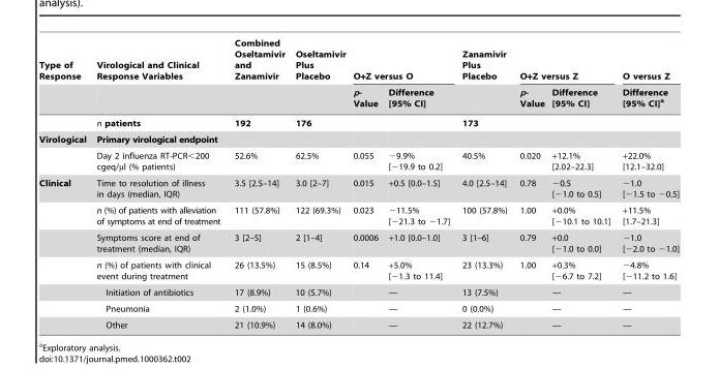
<table><thead><tr><td rowspan="2">Type of Response</td><td rowspan="2">Virological and Clinical Response Variables</td><td rowspan="2">Combined Oseltamivir and Zanamivir</td><td rowspan="2">Oseltamivir Plus Placebo</td><td colspan="2">O+Z versus O</td><td rowspan="2">Zanamivir Plus Placebo</td><td colspan="2">O+Z versus Z</td><td rowspan="2">O versus Z Difference [95% CI]<sup>a</sup></td></tr><tr><td>p- Value</td><td>Difference [95% CI]</td><td>p- Value</td><td>Difference [95% CI]</td></tr></thead><tbody><tr><td></td><td>n patients</td><td>192</td><td>176</td><td></td><td></td><td>173</td><td></td><td></td><td></td></tr><tr><td rowspan="2">Virological</td><td>Primary virological endpoint</td><td></td><td></td><td></td><td></td><td></td><td></td><td></td><td></td></tr><tr><td>Day 2 influenza RT-PCR&lt;200 cgeq/µl (% patients)</td><td>52.6%</td><td>62.5%</td><td>0.055</td><td>−9.9% [−19.9 to 0.2]</td><td>40.5%</td><td>0.020</td><td>+12.1% [2.02–22.3]</td><td>+22.0% [12.1–32.0]</td></tr><tr><td rowspan="7">Clinical</td><td>Time to resolution of illness in days (median, IQR)</td><td>3.5 [2.5–14]</td><td>3.0 [2–7]</td><td>0.015</td><td>+0.5 [0.0–1.5]</td><td>4.0 [2.5–14]</td><td>0.78</td><td>−0.5 [−1.0 to 0.5]</td><td>−1.0 [−1.5 to −0.5]</td></tr><tr><td>n (%) of patients with alleviation of symptoms at end of treatment</td><td>111 (57.8%)</td><td>122 (69.3%)</td><td>0.023</td><td>−11.5% [−21.3 to −1.7]</td><td>100 (57.8%)</td><td>1.00</td><td>+0.0% [−10.1 to 10.1]</td><td>+11.5% [1.7–21.3]</td></tr><tr><td>Symptoms score at end of treatment (median, IQR)</td><td>3 [2–5]</td><td>2 [1–4]</td><td>0.0006</td><td>+1.0 [0.0–1.0]</td><td>3 [1–6]</td><td>0.79</td><td>+0.0 [−1.0 to 0.0]</td><td>−1.0 [−2.0 to −1.0]</td></tr><tr><td>n (%) of patients with clinical event during treatment</td><td>26 (13.5%)</td><td>15 (8.5%)</td><td>0.14</td><td>+5.0% [−1.3 to 11.4]</td><td>23 (13.3%)</td><td>1.00</td><td>+0.3% [−6.7 to 7.2]</td><td>−4.8% [−11.2 to 1.6]</td></tr><tr><td>Initiation of antibiotics</td><td>17 (8.9%)</td><td>10 (5.7%)</td><td></td><td>—</td><td>13 (7.5%)</td><td></td><td>—</td><td>—</td></tr><tr><td>Pneumonia</td><td>2 (1.0%)</td><td>1 (0.6%)</td><td></td><td>—</td><td>0 (0.0%)</td><td></td><td>—</td><td>—</td></tr><tr><td>Other</td><td>21 (10.9%)</td><td>14 (8.0%)</td><td></td><td>—</td><td>22 (12.7%)</td><td></td><td>—</td><td>—</td></tr></tbody></table>